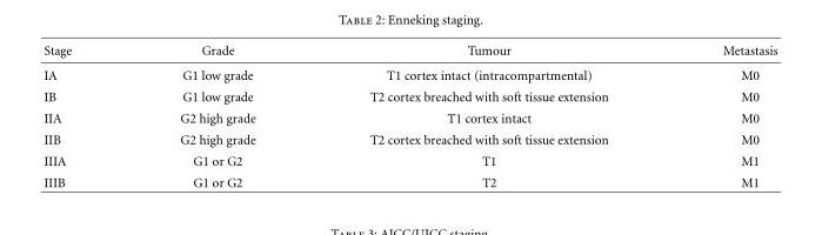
<table><thead><tr><td>Stage</td><td>Grade</td><td>Tumour</td><td>Metastasis</td></tr></thead><tbody><tr><td>IA</td><td>G1 low grade</td><td>T1 cortex intact (intracompartmental)</td><td>M0</td></tr><tr><td>IB</td><td>G1 low grade</td><td>T2 cortex breached with soft tissue extension</td><td>M0</td></tr><tr><td>IIA</td><td>G2 high grade</td><td>T1 cortex intact</td><td>M0</td></tr><tr><td>IIB</td><td>G2 high grade</td><td>T2 cortex breached with soft tissue extension</td><td>M0</td></tr><tr><td>IIIA</td><td>G1 or G2</td><td>T1</td><td>M1</td></tr><tr><td>IIIB</td><td>G1 or G2</td><td>T2</td><td>M1</td></tr></tbody></table>